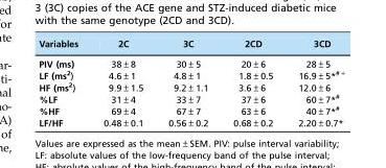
<table><thead><tr><td>Variables</td><td>2C</td><td>3C</td><td>2CD</td><td>3CD</td></tr></thead><tbody><tr><td>PIV (ms)</td><td>38±8</td><td>30±5</td><td>20±6</td><td>28±5</td></tr><tr><td>LF (ms<sup>2</sup>)</td><td>4.6±1</td><td>4.8±1</td><td>1.8±0.5</td><td>16.9±5*<sup>#+</sup></td></tr><tr><td>HF (ms<sup>2</sup>)</td><td>9.9±1.5</td><td>9.2±1.1</td><td>3.6±6</td><td>12.0±6</td></tr><tr><td>%LF</td><td>31±4</td><td>33±7</td><td>37±6</td><td>60±7*<sup>#</sup></td></tr><tr><td>%HF</td><td>69±4</td><td>67±7</td><td>63±6</td><td>40±7*<sup>#</sup></td></tr><tr><td>LF/HF</td><td>0.48±0.1</td><td>0.56±0.2</td><td>0.68±0.2</td><td>2.20±0.7*</td></tr></tbody></table>